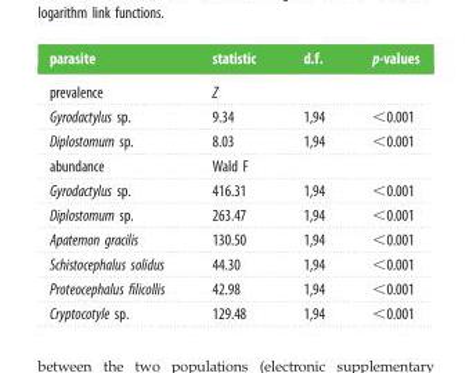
<table><thead><tr><td>parasite</td><td>statistic</td><td>d.f.</td><td>p-values</td></tr></thead><tbody><tr><td>prevalence</td><td>Z</td><td></td><td></td></tr><tr><td>Gyrodactylus sp.</td><td>9.34</td><td>1,94</td><td>&lt;0.001</td></tr><tr><td>Diplostomum sp.</td><td>8.03</td><td>1,94</td><td>&lt;0.001</td></tr><tr><td>abundance</td><td>Wald F</td><td></td><td></td></tr><tr><td>Gyrodactylus sp.</td><td>416.31</td><td>1,94</td><td>&lt;0.001</td></tr><tr><td>Diplostomum sp.</td><td>263.47</td><td>1,94</td><td>&lt;0.001</td></tr><tr><td>Apatemon gracilis</td><td>130.50</td><td>1,94</td><td>&lt;0.001</td></tr><tr><td>Schistocephalus solidus</td><td>44.30</td><td>1,94</td><td>&lt;0.001</td></tr><tr><td>Proteocephalus filicollis</td><td>42.98</td><td>1,94</td><td>&lt;0.001</td></tr><tr><td>Cryptocotyle sp.</td><td>129.48</td><td>1,94</td><td>&lt;0.001</td></tr></tbody></table>